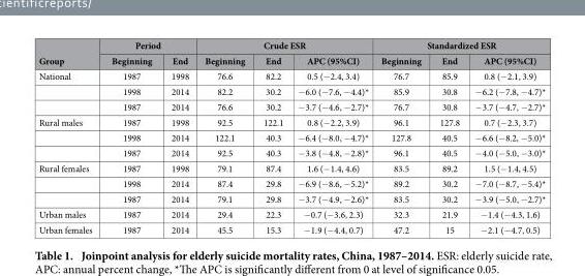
<table><thead><tr><td rowspan="2">Group</td><td colspan="2">Period</td><td colspan="3">Crude ESR</td><td colspan="3">Standardized ESR</td></tr><tr><td>Beginning</td><td>End</td><td>Beginning</td><td>End</td><td>APC (95%CI)</td><td>Beginning</td><td>End</td><td>APC (95%CI)</td></tr></thead><tbody><tr><td rowspan="3">National</td><td>1987</td><td>1998</td><td>76.6</td><td>82.2</td><td>0.5 (− 2.4, 3.4)</td><td>76.7</td><td>85.9</td><td>0.8 (− 2.1, 3.9)</td></tr><tr><td>1998</td><td>2014</td><td>82.2</td><td>30.2</td><td>− 6.0 (− 7.6, − 4.4)*</td><td>85.9</td><td>30.8</td><td>− 6.2 (− 7.8, − 4.7)*</td></tr><tr><td>1987</td><td>2014</td><td>76.6</td><td>30.2</td><td>− 3.7 (− 4.6, − 2.7)*</td><td>76.7</td><td>30.8</td><td>− 3.7 (− 4.7, − 2.7)*</td></tr><tr><td rowspan="3">Rural males</td><td>1987</td><td>1998</td><td>92.5</td><td>122.1</td><td>0.8 (− 2.2, 3.9)</td><td>96.1</td><td>127.8</td><td>0.7 (− 2.3, 3.7)</td></tr><tr><td>1998</td><td>2014</td><td>122.1</td><td>40.3</td><td>− 6.4 (− 8.0, − 4.7)*</td><td>127.8</td><td>40.5</td><td>− 6.6 (− 8.2, − 5.0)*</td></tr><tr><td>1987</td><td>2014</td><td>92.5</td><td>40.3</td><td>− 3.8 (− 4.8, − 2.8)*</td><td>96.1</td><td>40.5</td><td>− 4.0 (− 5.0, − 3.0)*</td></tr><tr><td rowspan="3">Rural females</td><td>1987</td><td>1998</td><td>79.1</td><td>87.4</td><td>1.6 (− 1.4, 4.6)</td><td>83.5</td><td>89.2</td><td>1.5 (− 1.4, 4.5)</td></tr><tr><td>1998</td><td>2014</td><td>87.4</td><td>29.8</td><td>− 6.9 (− 8.6, − 5.2)*</td><td>89.2</td><td>30.2</td><td>− 7.0 (− 8.7, − 5.4)*</td></tr><tr><td>1987</td><td>2014</td><td>79.1</td><td>29.8</td><td>− 3.7 (− 4.9, − 2.6)*</td><td>83.5</td><td>30.2</td><td>− 3.9 (− 5.0, − 2.7)*</td></tr><tr><td>Urban males</td><td>1987</td><td>2014</td><td>29.4</td><td>22.3</td><td>− 0.7 (− 3.6, 2.3)</td><td>32.3</td><td>21.9</td><td>− 1.4 (− 4.3, 1.6)</td></tr><tr><td>Urban females</td><td>1987</td><td>2014</td><td>45.5</td><td>15.3</td><td>− 1.9 (− 4.4, 0.7)</td><td>47.2</td><td>15</td><td>− 2.1 (− 4.7, 0.5)</td></tr></tbody></table>